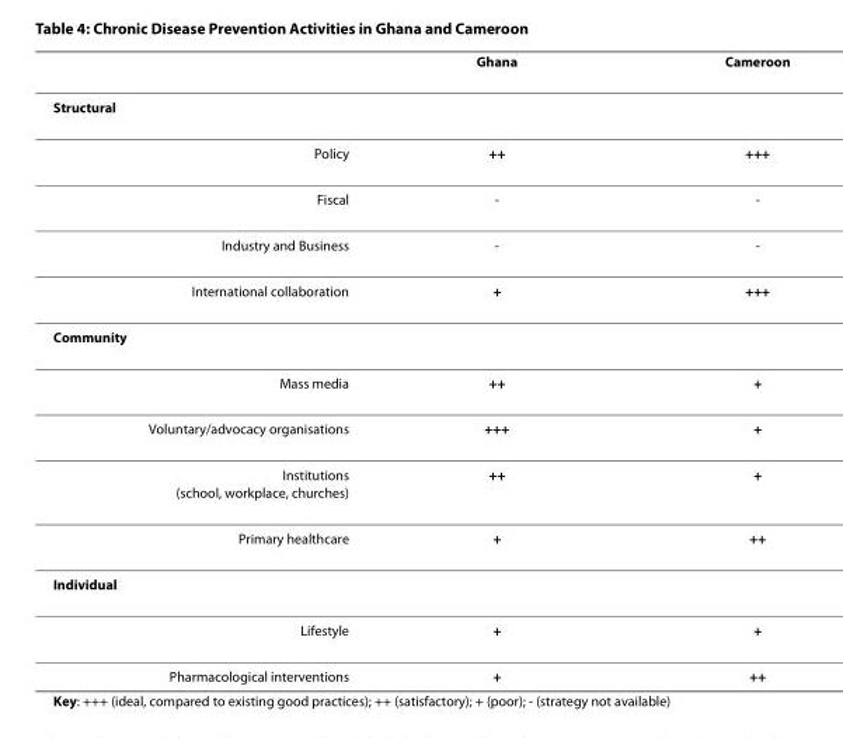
<table><thead><tr><td></td><td>Ghana</td><td>Cameroon</td></tr></thead><tbody><tr><td colspan="3">Structural</td></tr><tr><td>Policy</td><td>++</td><td>+++</td></tr><tr><td>Fiscal</td><td>-</td><td>-</td></tr><tr><td>Industry and Business</td><td>-</td><td>-</td></tr><tr><td>International collaboration</td><td>+</td><td>+++</td></tr><tr><td colspan="3">Community</td></tr><tr><td>Mass media</td><td>++</td><td>+</td></tr><tr><td>Voluntary/advocacy organisations</td><td>+++</td><td>+</td></tr><tr><td>Institutions (school, workplace, churches)</td><td>++</td><td>+</td></tr><tr><td>Primary healthcare</td><td>+</td><td>++</td></tr><tr><td colspan="3">Individual</td></tr><tr><td>Lifestyle</td><td>+</td><td>+</td></tr><tr><td>Pharmacological interventions</td><td>+</td><td>++</td></tr></tbody></table>